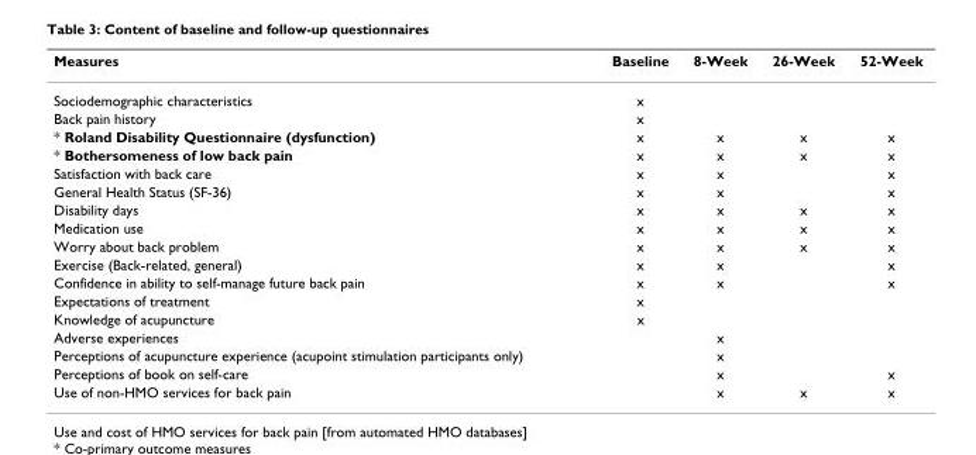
<table><thead><tr><td>Measures</td><td>Baseline</td><td>8-Week</td><td>26-Week</td><td>52-Week</td></tr></thead><tbody><tr><td>Sociodemographic characteristics</td><td>x</td><td></td><td></td><td></td></tr><tr><td>Back pain history</td><td>x</td><td></td><td></td><td></td></tr><tr><td>* Roland Disability Questionnaire (dysfunction)</td><td>x</td><td>x</td><td>x</td><td>x</td></tr><tr><td>* Bothersomeness of low back pain</td><td>x</td><td>x</td><td>x</td><td>x</td></tr><tr><td>Satisfaction with back care</td><td>x</td><td>x</td><td></td><td>x</td></tr><tr><td>General Health Status (SF-36)</td><td>x</td><td>x</td><td></td><td>x</td></tr><tr><td>Disability days</td><td>x</td><td>x</td><td>x</td><td>x</td></tr><tr><td>Medication use</td><td>x</td><td>x</td><td>x</td><td>x</td></tr><tr><td>Worry about back problem</td><td>x</td><td>x</td><td>x</td><td>x</td></tr><tr><td>Exercise (Back-related, general)</td><td>x</td><td>x</td><td></td><td>x</td></tr><tr><td>Confidence in ability to self-manage future back pain</td><td>x</td><td>x</td><td></td><td>x</td></tr><tr><td>Expectations of treatment</td><td>x</td><td></td><td></td><td></td></tr><tr><td>Knowledge of acupuncture</td><td>x</td><td></td><td></td><td></td></tr><tr><td>Adverse experiences</td><td></td><td>x</td><td></td><td></td></tr><tr><td>Perceptions of acupuncture experience (acupoint stimulation participants only)</td><td></td><td>x</td><td></td><td></td></tr><tr><td>Perceptions of book on self-care</td><td></td><td>x</td><td></td><td>x</td></tr><tr><td>Use of non-HMO services for back pain</td><td></td><td>x</td><td>x</td><td>x</td></tr></tbody></table>